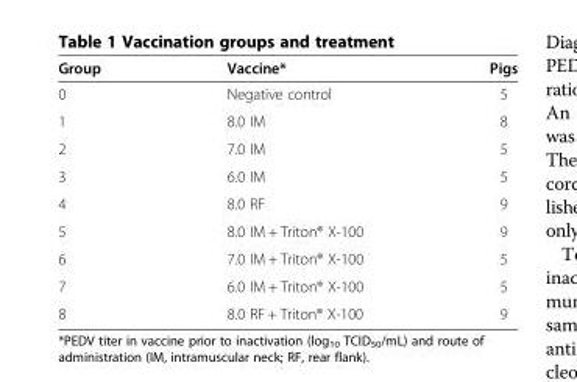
<table><thead><tr><td>Group</td><td>Vaccine*</td><td>Pigs</td></tr></thead><tbody><tr><td>0</td><td>Negative control</td><td>5</td></tr><tr><td>1</td><td>8.0 IM</td><td>8</td></tr><tr><td>2</td><td>7.0 IM</td><td>5</td></tr><tr><td>3</td><td>6.0 IM</td><td>5</td></tr><tr><td>4</td><td>8.0 RF</td><td>9</td></tr><tr><td>5</td><td>8.0 IM + Triton® X-100</td><td>9</td></tr><tr><td>6</td><td>7.0 IM + Triton® X-100</td><td>5</td></tr><tr><td>7</td><td>6.0 IM + Triton® X-100</td><td>5</td></tr><tr><td>8</td><td>8.0 RF + Triton® X-100</td><td>9</td></tr></tbody></table>